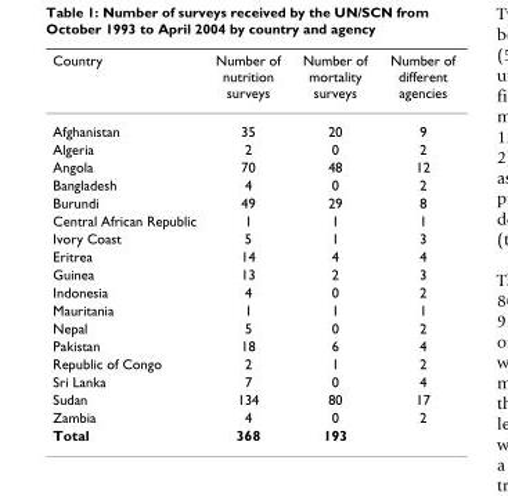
<table><thead><tr><td>Country</td><td>Number of nutrition surveys</td><td>Number of mortality surveys</td><td>Number of different agencies</td></tr></thead><tbody><tr><td>Afghanistan</td><td>35</td><td>20</td><td>9</td></tr><tr><td>Algeria</td><td>2</td><td>0</td><td>2</td></tr><tr><td>Angola</td><td>70</td><td>48</td><td>12</td></tr><tr><td>Bangladesh</td><td>4</td><td>0</td><td>2</td></tr><tr><td>Burundi</td><td>49</td><td>29</td><td>8</td></tr><tr><td>Central African Republic</td><td>1</td><td>1</td><td>1</td></tr><tr><td>Ivory Coast</td><td>5</td><td>1</td><td>3</td></tr><tr><td>Eritrea</td><td>14</td><td>4</td><td>4</td></tr><tr><td>Guinea</td><td>13</td><td>2</td><td>3</td></tr><tr><td>Indonesia</td><td>4</td><td>0</td><td>2</td></tr><tr><td>Mauritania</td><td>1</td><td>1</td><td>1</td></tr><tr><td>Nepal</td><td>5</td><td>0</td><td>2</td></tr><tr><td>Pakistan</td><td>18</td><td>6</td><td>4</td></tr><tr><td>Republic of Congo</td><td>2</td><td>1</td><td>2</td></tr><tr><td>Sri Lanka</td><td>7</td><td>0</td><td>4</td></tr><tr><td>Sudan</td><td>134</td><td>80</td><td>17</td></tr><tr><td>Zambia</td><td>4</td><td>0</td><td>2</td></tr><tr><td>Total</td><td>368</td><td>193</td><td></td></tr></tbody></table>